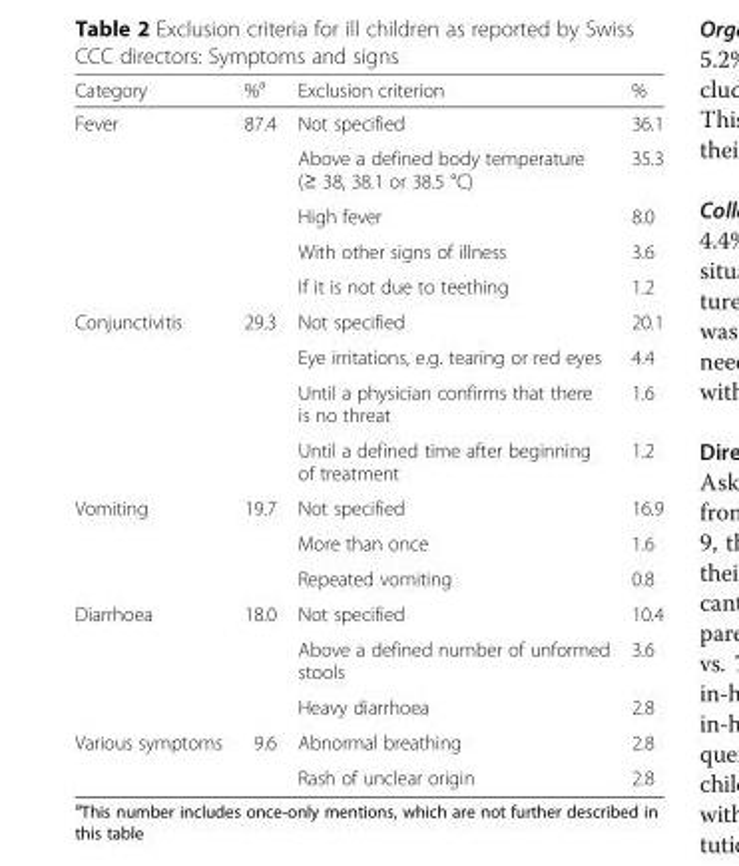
<table><thead><tr><td>Category</td><td>%<sup>a</sup></td><td>Exclusion criterion</td><td>%</td></tr></thead><tbody><tr><td rowspan="5">Fever</td><td rowspan="5">87.4</td><td>Not specified</td><td>36.1</td></tr><tr><td>Above a defined body temperature (≥ 38, 38.1 or 38.5 °C)</td><td>35.3</td></tr><tr><td>High fever</td><td>8.0</td></tr><tr><td>With other signs of illness</td><td>3.6</td></tr><tr><td>If it is not due to teething</td><td>1.2</td></tr><tr><td rowspan="4">Conjunctivitis</td><td rowspan="4">29.3</td><td>Not specified</td><td>20.1</td></tr><tr><td>Eye irritations, e.g. tearing or red eyes</td><td>4.4</td></tr><tr><td>Until a physician confirms that there is no threat</td><td>1.6</td></tr><tr><td>Until a defined time after beginning of treatment</td><td>1.2</td></tr><tr><td rowspan="3">Vomiting</td><td rowspan="3">19.7</td><td>Not specified</td><td>16.9</td></tr><tr><td>More than once</td><td>1.6</td></tr><tr><td>Repeated vomiting</td><td>0.8</td></tr><tr><td rowspan="3">Diarrhoea</td><td rowspan="3">18.0</td><td>Not specified</td><td>10.4</td></tr><tr><td>Above a defined number of unformed stools</td><td>3.6</td></tr><tr><td>Heavy diarrhoea</td><td>2.8</td></tr><tr><td rowspan="2">Various symptoms</td><td rowspan="2">9.6</td><td>Abnormal breathing</td><td>2.8</td></tr><tr><td>Rash of unclear origin</td><td>2.8</td></tr></tbody></table>